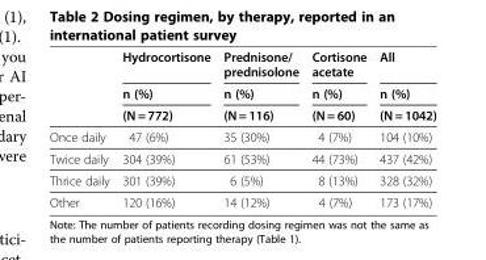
<table><thead><tr><td rowspan="3"></td><td rowspan="3">Hydrocortisone n (%) (N = 772)</td><td rowspan="3">Prednisone/ prednisolone n (%) (N = 116)</td><td rowspan="3">Cortisone acetate n (%) (N = 60)</td><td rowspan="3">All n (%) (N = 1042)</td></tr><tr></tr><tr></tr></thead><tbody><tr><td>Once daily</td><td>47 (6%)</td><td>35 (30%)</td><td>4 (7%)</td><td>104 (10%)</td></tr><tr><td>Twice daily</td><td>304 (39%)</td><td>61 (53%)</td><td>44 (73%)</td><td>437 (42%)</td></tr><tr><td>Thrice daily</td><td>301 (39%)</td><td>6 (5%)</td><td>8 (13%)</td><td>328 (32%)</td></tr><tr><td>Other</td><td>120 (16%)</td><td>14 (12%)</td><td>4 (7%)</td><td>173 (17%)</td></tr></tbody></table>